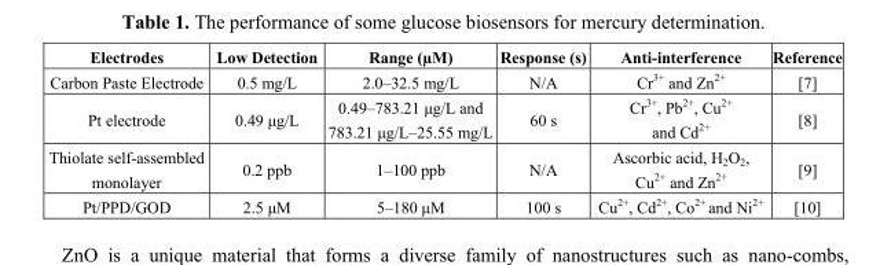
<table><thead><tr><td>Electrodes</td><td>Low Detection</td><td>Range (µM)</td><td>Response (s)</td><td>Anti-interference</td><td>Reference</td></tr></thead><tbody><tr><td>Carbon Paste Electrode</td><td>0.5 mg/L</td><td>2.0–32.5 mg/L</td><td>N/A</td><td>Cr<sup>3+</sup> and Zn<sup>2+</sup></td><td>[7]</td></tr><tr><td>Pt electrode</td><td>0.49 μg/L</td><td>0.49–783.21 μg/L and 783.21 μg/L–25.55 mg/L</td><td>60 s</td><td>Cr<sup>3+</sup>, Pb<sup>2+</sup>, Cu<sup>2+</sup> and Cd<sup>2+</sup></td><td>[8]</td></tr><tr><td>Thiolate self-assembled monolayer</td><td>0.2 ppb</td><td>1–100 ppb</td><td>N/A</td><td>Ascorbic acid, H<sub>2</sub>O<sub>2</sub>, Cu<sup>2+</sup> and Zn<sup>2+</sup></td><td>[9]</td></tr><tr><td>Pt/PPD/GOD</td><td>2.5 μM</td><td>5–180 μM</td><td>100 s</td><td>Cu<sup>2+</sup>, Cd<sup>2+</sup>, Co<sup>2+</sup> and Ni<sup>2+</sup></td><td>[10]</td></tr></tbody></table>